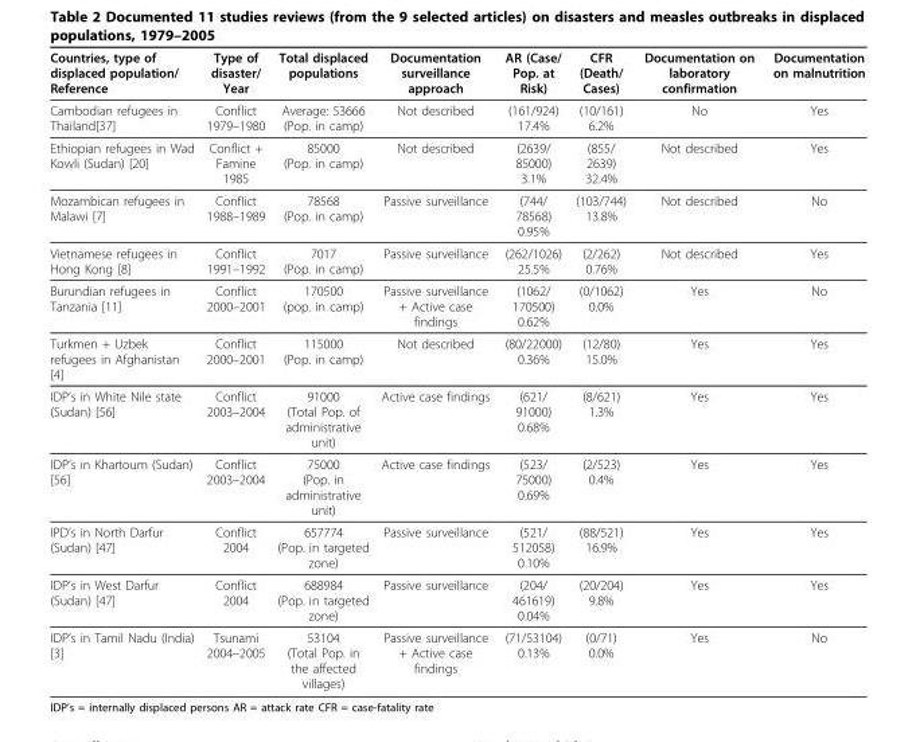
<table><thead><tr><td>Countries, type of displaced population/ Reference</td><td>Type of disaster/ Year</td><td>Total displaced populations</td><td>Documentation surveillance approach</td><td>AR (Case/ Pop. at Risk)</td><td>CFR (Death/ Cases)</td><td>Documentation on laboratory confirmation</td><td>Documentation on malnutrition</td></tr></thead><tbody><tr><td>Cambodian refugees in Thailand[37]</td><td>Conflict 1979–1980</td><td>Average: 53666 (Pop. in camp)</td><td>Not described</td><td>(161/924) 17.4%</td><td>(10/161) 6.2%</td><td>No</td><td>Yes</td></tr><tr><td>Ethiopian refugees in Wad Kowli (Sudan) [20]</td><td>Conflict + Famine 1985</td><td>85000 (Pop. in camp)</td><td>Not described</td><td>(2639/ 85000) 3.1%</td><td>(855/ 2639) 32.4%</td><td>Not described</td><td>Yes</td></tr><tr><td>Mozambican refugees in Malawi [7]</td><td>Conflict 1988–1989</td><td>78568 (Pop. in camp)</td><td>Passive surveillance</td><td>(744/ 78568) 0.95%</td><td>(103/744) 13.8%</td><td>Not described</td><td>No</td></tr><tr><td>Vietnamese refugees in Hong Kong [8]</td><td>Conflict 1991–1992</td><td>7017 (Pop. in camp)</td><td>Passive surveillance</td><td>(262/1026) 25.5%</td><td>(2/262) 0.76%</td><td>Not described</td><td>Yes</td></tr><tr><td>Burundian refugees in Tanzania [11]</td><td>Conflict 2000–2001</td><td>170500 (pop. in camp)</td><td>Passive surveillance + Active case findings</td><td>(1062/ 170500) 0.62%</td><td>(0/1062) 0.0%</td><td>Yes</td><td>No</td></tr><tr><td>Turkmen + Uzbek refugees in Afghanistan [4]</td><td>Conflict 2000–2001</td><td>115000 (Pop. in camp)</td><td>Not described</td><td>(80/22000) 0.36%</td><td>(12/80) 15.0%</td><td>Yes</td><td>Yes</td></tr><tr><td>IDP’s in White Nile state (Sudan) [56]</td><td>Conflict 2003–2004</td><td>91000 (Total Pop. of administrative unit)</td><td>Active case findings</td><td>(621/ 91000) 0.68%</td><td>(8/621) 1.3%</td><td>Yes</td><td>Yes</td></tr><tr><td>IDP’s in Khartoum (Sudan) [56]</td><td>Conflict 2003–2004</td><td>75000 (Pop. in administrative unit)</td><td>Active case findings</td><td>(523/ 75000) 0.69%</td><td>(2/523) 0.4%</td><td>Yes</td><td>Yes</td></tr><tr><td>IPD’s in North Darfur (Sudan) [47]</td><td>Conflict 2004</td><td>657774 (Pop. in targeted zone)</td><td>Passive surveillance</td><td>(521/ 512058) 0.10%</td><td>(88/521) 16.9%</td><td>Yes</td><td>Yes</td></tr><tr><td>IDP’s in West Darfur (Sudan) [47]</td><td>Conflict 2004</td><td>688984 (Pop. in targeted zone)</td><td>Passive surveillance</td><td>(204/ 461619) 0.04%</td><td>(20/204) 9.8%</td><td>Yes</td><td>Yes</td></tr><tr><td>IDP’s in Tamil Nadu (India) [3]</td><td>Tsunami 2004–2005</td><td>53104 (Total Pop. in the affected villages)</td><td>Passive surveillance + Active case findings</td><td>(71/53104) 0.13%</td><td>(0/71) 0.0%</td><td>Yes</td><td>No</td></tr></tbody></table>